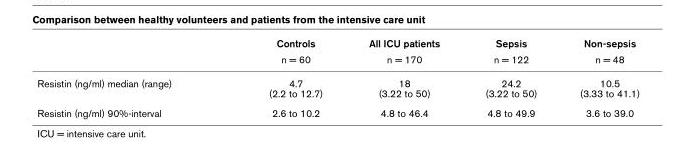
<table><thead><tr><td rowspan="2"></td><td rowspan="2">Controls n = 60</td><td rowspan="2">All ICU patients n = 170</td><td rowspan="2">Sepsis n = 122</td><td rowspan="2">Non-sepsis n = 48</td></tr><tr></tr></thead><tbody><tr><td>Resistin (ng/ml) median (range)</td><td>4.7 (2.2 to 12.7)</td><td>18 (3.22 to 50)</td><td>24.2 (3.22 to 50)</td><td>10.5 (3.33 to 41.1)</td></tr><tr><td>Resistin (ng/ml) 90%-interval</td><td>2.6 to 10.2</td><td>4.8 to 46.4</td><td>4.8 to 49.9</td><td>3.6 to 39.0</td></tr></tbody></table>